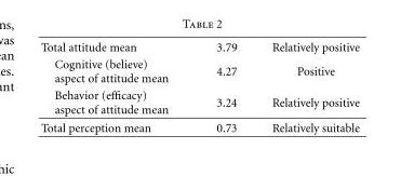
<table><tbody><tr><td>Total attitude mean</td><td>3.79</td><td>Relatively positive</td></tr><tr><td>Cognitive (believe) aspect of attitude mean</td><td>4.27</td><td>Positive</td></tr><tr><td>Behavior (efficacy) aspect of attitude mean</td><td>3.24</td><td>Relatively positive</td></tr><tr><td>Total perception mean</td><td>0.73</td><td>Relatively suitable</td></tr></tbody></table>